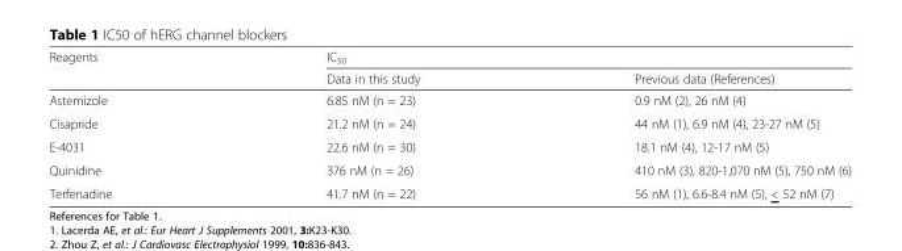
<table><thead><tr><td rowspan="2">Reagents</td><td colspan="2">IC<sub>50</sub></td></tr><tr><td>Data in this study</td><td>Previous data (References)</td></tr></thead><tbody><tr><td>Astemizole</td><td>6.85 nM (n = 23)</td><td>0.9 nM (2), 26 nM (4)</td></tr><tr><td>Cisapride</td><td>21.2 nM (n = 24)</td><td>44 nM (1), 6.9 nM (4), 23-27 nM (5)</td></tr><tr><td>E-4031</td><td>22.6 nM (n = 30)</td><td>18.1 nM (4), 12-17 nM (5)</td></tr><tr><td>Quinidine</td><td>376 nM (n = 26)</td><td>410 nM (3), 820-1,070 nM (5), 750 nM (6)</td></tr><tr><td>Terfenadine</td><td>41.7 nM (n = 22)</td><td>56 nM (1), 6.6-8.4 nM (5), &lt; 52 nM (7)</td></tr></tbody></table>